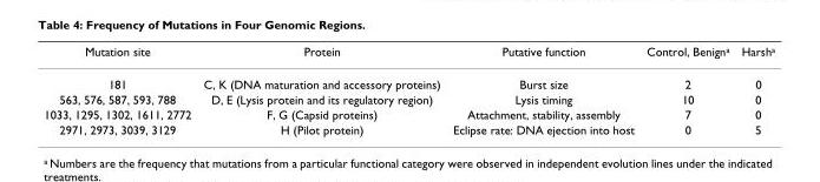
<table><thead><tr><td>Mutation site</td><td>Protein</td><td>Putative function</td><td>Control, Benign<sup>a</sup></td><td>Harsh<sup>a</sup></td></tr></thead><tbody><tr><td>181</td><td>C, K (DNA maturation and accessory proteins)</td><td>Burst size</td><td>2</td><td>0</td></tr><tr><td>563, 576, 587, 593, 788</td><td>D, E (Lysis protein and its regulatory region)</td><td>Lysis timing</td><td>10</td><td>0</td></tr><tr><td>1033, 1295, 1302, 1611, 2772</td><td>F, G (Capsid proteins)</td><td>Attachment, stability, assembly</td><td>7</td><td>0</td></tr><tr><td>2971, 2973, 3039, 3129</td><td>H (Pilot protein)</td><td>Eclipse rate: DNA ejection into host</td><td>0</td><td>5</td></tr></tbody></table>